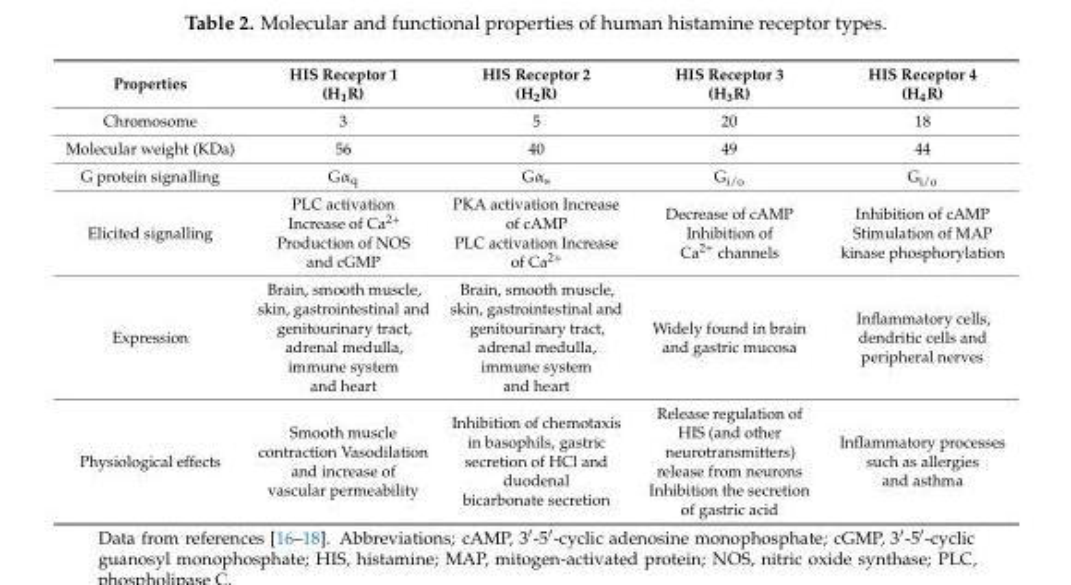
<table><thead><tr><td>Properties</td><td>HIS Receptor 1 (H<sub>1</sub>R)</td><td>HIS Receptor 2 (H<sub>2</sub>R)</td><td>HIS Receptor 3 (H<sub>3</sub>R)</td><td>HIS Receptor 4 (H<sub>4</sub>R)</td></tr></thead><tbody><tr><td>Chromosome</td><td>3</td><td>5</td><td>20</td><td>18</td></tr><tr><td>Molecular weight (KDa)</td><td>56</td><td>40</td><td>49</td><td>44</td></tr><tr><td>G protein signalling</td><td>Gα<sub>q</sub></td><td>Gα<sub>s</sub></td><td>G<sub>i/o</sub></td><td>G<sub>i/o</sub></td></tr><tr><td>Elicited signalling</td><td>PLC activation Increase of Ca<sup>2+</sup> Production of NOS and cGMP</td><td>PKA activation Increase of cAMP PLC activation Increase of Ca<sup>2+</sup></td><td>Decrease of cAMP Inhibition of Ca<sup>2+</sup> channels</td><td>Inhibition of cAMP Stimulation of MAP kinase phosphorylation</td></tr><tr><td>Expression</td><td>Brain, smooth muscle, skin, gastrointestinal and genitourinary tract, adrenal medulla, immune system and heart</td><td>Brain, smooth muscle, skin, gastrointestinal and genitourinary tract, adrenal medulla, immune system and heart</td><td>Widely found in brain and gastric mucosa</td><td>Inflammatory cells, dendritic cells and peripheral nerves</td></tr><tr><td>Physiological effects</td><td>Smooth muscle contraction Vasodilation and increase of vascular permeability</td><td>Inhibition of chemotaxis in basophils, gastric secretion of HCl and duodenal bicarbonate secretion</td><td>Release regulation of HIS (and other neurotransmitters) release from neurons Inhibition the secretion of gastric acid</td><td>Inflammatory processes such as allergies and asthma</td></tr></tbody></table>